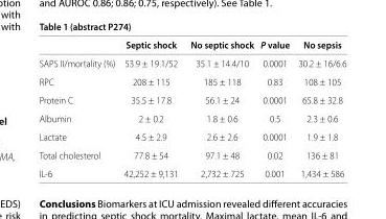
<table><thead><tr><td></td><td>Septic shock</td><td>No septic shock</td><td>P value</td><td>No sepsis</td></tr></thead><tbody><tr><td>SAPS II/mortality (%)</td><td>53.9 ± 19.1/52</td><td>35.1 ± 14.4/10</td><td>0.0001</td><td>30.2 ± 16/6.6</td></tr><tr><td>RPC</td><td>208 ± 115</td><td>185 ± 118</td><td>0.83</td><td>108 ± 105</td></tr><tr><td>Protein C</td><td>35.5 ± 17.8</td><td>56.1 ± 24</td><td>0.0001</td><td>65.8 ± 32.8</td></tr><tr><td>Albumin</td><td>2 ± 0.2</td><td>1.8 ± 0.6</td><td>0.5</td><td>2.3 ± 0.6</td></tr><tr><td>Lactate</td><td>4.5 ± 2.9</td><td>2.6 ± 2.6</td><td>0.0001</td><td>1.9 ± 1.8</td></tr><tr><td>Total cholesterol</td><td>77.8 ± 54</td><td>97.1 ± 48</td><td>0.02</td><td>136 ± 81</td></tr><tr><td>IL-6</td><td>42,252 ± 9,131</td><td>2,732 ± 725</td><td>0.001</td><td>1,434 ± 586</td></tr></tbody></table>